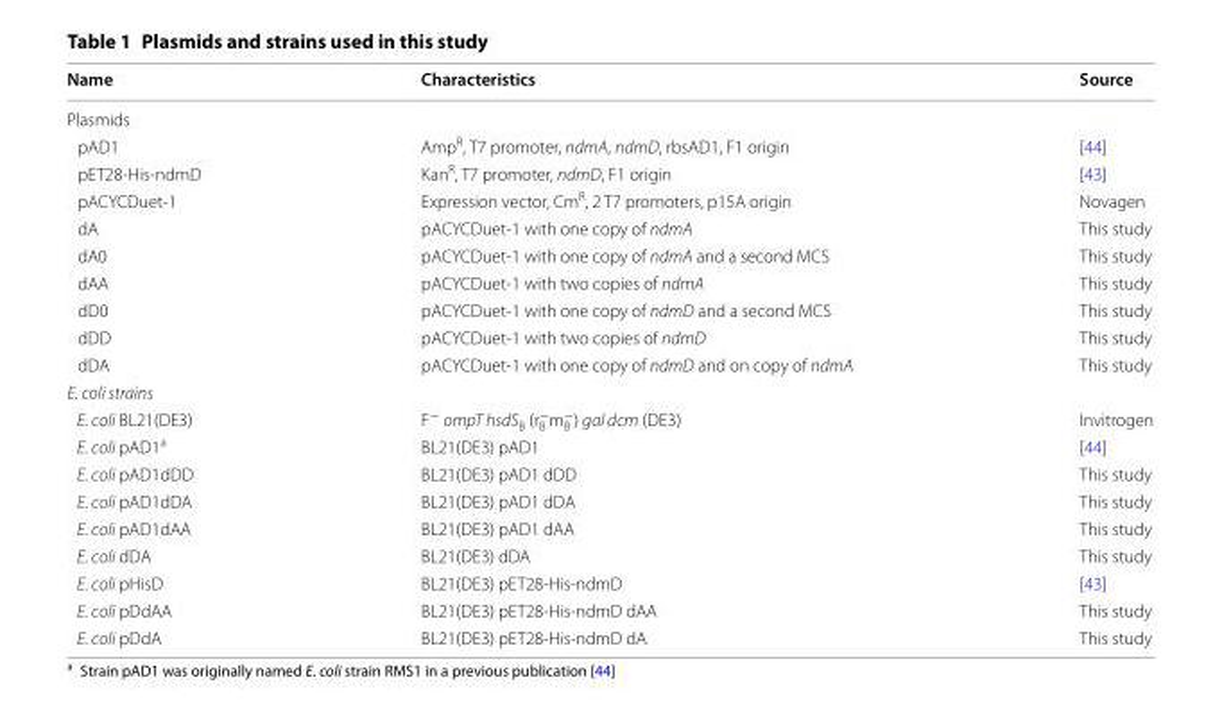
<table><thead><tr><td>Name</td><td>Characteristics</td><td>Source</td></tr></thead><tbody><tr><td colspan="3">Plasmids</td></tr><tr><td>pAD1</td><td>Amp<sup>R</sup>, T7 promoter, ndmA, ndmD, rbsAD1, F1 origin</td><td>[44]</td></tr><tr><td>pET28-His-ndmD</td><td>Kan<sup>R</sup>, T7 promoter, ndmD, F1 origin</td><td>[43]</td></tr><tr><td>pACYCDuet-1</td><td>Expression vector, Cm<sup>R</sup>, 2 T7 promoters, p15A origin</td><td>Novagen</td></tr><tr><td>dA</td><td>pACYCDuet-1 with one copy of ndmA</td><td>This study</td></tr><tr><td>dA0</td><td>pACYCDuet-1 with one copy of ndmA and a second MCS</td><td>This study</td></tr><tr><td>dAA</td><td>pACYCDuet-1 with two copies of ndmA</td><td>This study</td></tr><tr><td>dD0</td><td>pACYCDuet-1 with one copy of ndmD and a second MCS</td><td>This study</td></tr><tr><td>dDD</td><td>pACYCDuet-1 with two copies of ndmD</td><td>This study</td></tr><tr><td>dDA</td><td>pACYCDuet-1 with one copy of ndmD and on copy of ndmA</td><td>This study</td></tr><tr><td colspan="3">E. coli strains</td></tr><tr><td>E. coli BL21(DE3)</td><td>F<sup>−</sup> ompT hsdS<sub>B</sub> (r<sub>B</sub> <sup>−</sup>m<sub>B</sub> <sup>−</sup>) gal dcm (DE3)</td><td>Invitrogen</td></tr><tr><td>E. coli pAD1<sup>a</sup></td><td>BL21(DE3) pAD1</td><td>[44]</td></tr><tr><td>E. coli pAD1dDD</td><td>BL21(DE3) pAD1 dDD</td><td>This study</td></tr><tr><td>E. coli pAD1dDA</td><td>BL21(DE3) pAD1 dDA</td><td>This study</td></tr><tr><td>E. coli pAD1dAA</td><td>BL21(DE3) pAD1 dAA</td><td>This study</td></tr><tr><td>E. coli dDA</td><td>BL21(DE3) dDA</td><td>This study</td></tr><tr><td>E. coli pHisD</td><td>BL21(DE3) pET28-His-ndmD</td><td>[43]</td></tr><tr><td>E. coli pDdAA</td><td>BL21(DE3) pET28-His-ndmD dAA</td><td>This study</td></tr><tr><td>E. coli pDdA</td><td>BL21(DE3) pET28-His-ndmD dA</td><td>This study</td></tr></tbody></table>